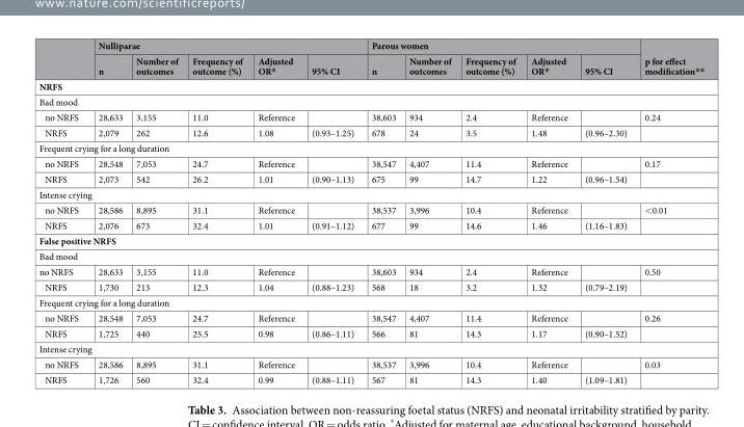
<table><thead><tr><td rowspan="2"></td><td colspan="5">Nulliparae</td><td colspan="5">Parous women</td><td rowspan="2">p for effect modification**</td></tr><tr><td>n</td><td>Number of outcomes</td><td>Frequency of outcome (%)</td><td>Adjusted OR*</td><td>95% CI</td><td>n</td><td>Number of outcomes</td><td>Frequency of outcome (%)</td><td>Adjusted OR*</td><td>95% CI</td></tr></thead><tbody><tr><td colspan="12">NRFS</td></tr><tr><td colspan="12">Bad mood</td></tr><tr><td>no NRFS</td><td>28,633</td><td>3,155</td><td>11.0</td><td>Reference</td><td></td><td>38,603</td><td>934</td><td>2.4</td><td>Reference</td><td></td><td>0.24</td></tr><tr><td>NRFS</td><td>2,079</td><td>262</td><td>12.6</td><td>1.08</td><td>(0.93–1.25)</td><td>678</td><td>24</td><td>3.5</td><td>1.48</td><td>(0.96–2.30)</td><td></td></tr><tr><td colspan="12">Frequent crying for a long duration</td></tr><tr><td>no NRFS</td><td>28,548</td><td>7,053</td><td>24.7</td><td>Reference</td><td></td><td>38,547</td><td>4,407</td><td>11.4</td><td>Reference</td><td></td><td>0.17</td></tr><tr><td>NRFS</td><td>2,073</td><td>542</td><td>26.2</td><td>1.01</td><td>(0.90–1.13)</td><td>675</td><td>99</td><td>14.7</td><td>1.22</td><td>(0.96–1.54)</td><td></td></tr><tr><td colspan="12">Intense crying</td></tr><tr><td>no NRFS</td><td>28,586</td><td>8,895</td><td>31.1</td><td>Reference</td><td></td><td>38,537</td><td>3,996</td><td>10.4</td><td>Reference</td><td></td><td>&lt;0.01</td></tr><tr><td>NRFS</td><td>2,076</td><td>673</td><td>32.4</td><td>1.01</td><td>(0.91–1.12)</td><td>677</td><td>99</td><td>14.6</td><td>1.46</td><td>(1.16–1.83)</td><td></td></tr><tr><td colspan="12">False positive NRFS</td></tr><tr><td colspan="12">Bad mood</td></tr><tr><td>no NRFS</td><td>28,633</td><td>3,155</td><td>11.0</td><td>Reference</td><td></td><td>38,603</td><td>934</td><td>2.4</td><td>Reference</td><td></td><td>0.50</td></tr><tr><td>NRFS</td><td>1,730</td><td>213</td><td>12.3</td><td>1.04</td><td>(0.88–1.23)</td><td>568</td><td>18</td><td>3.2</td><td>1.32</td><td>(0.79–2.19)</td><td></td></tr><tr><td colspan="12">Frequent crying for a long duration</td></tr><tr><td>no NRFS</td><td>28,548</td><td>7,053</td><td>24.7</td><td>Reference</td><td></td><td>38,547</td><td>4,407</td><td>11.4</td><td>Reference</td><td></td><td>0.26</td></tr><tr><td>NRFS</td><td>1,725</td><td>440</td><td>25.5</td><td>0.98</td><td>(0.86–1.11)</td><td>566</td><td>81</td><td>14.3</td><td>1.17</td><td>(0.90–1.52)</td><td></td></tr><tr><td colspan="12">Intense crying</td></tr><tr><td>no NRFS</td><td>28,586</td><td>8,895</td><td>31.1</td><td>Reference</td><td></td><td>38,537</td><td>3,996</td><td>10.4</td><td>Reference</td><td></td><td>0.03</td></tr><tr><td>NRFS</td><td>1,726</td><td>560</td><td>32.4</td><td>0.99</td><td>(0.88–1.11)</td><td>567</td><td>81</td><td>14.3</td><td>1.40</td><td>(1.09–1.81)</td><td></td></tr></tbody></table>